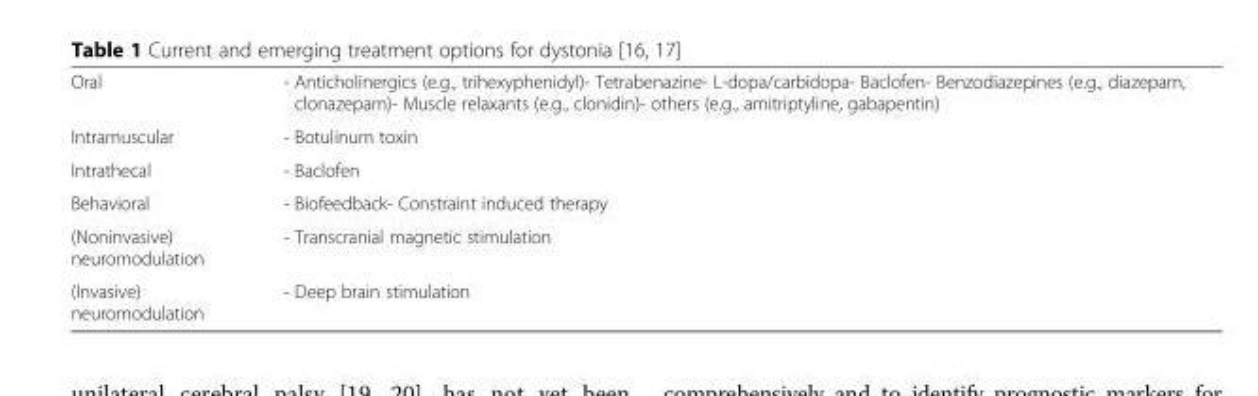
<table><tbody><tr><td>Oral</td><td>- Anticholinergics (e.g., trihexyphenidyl)- Tetrabenazine- L-dopa/carbidopa- Baclofen- Benzodiazepines (e.g., diazepam, clonazepam)- Muscle relaxants (e.g., clonidin)- others (e.g., amitriptyline, gabapentin)</td></tr><tr><td>Intramuscular</td><td>- Botulinum toxin</td></tr><tr><td>Intrathecal</td><td>- Baclofen</td></tr><tr><td>Behavioral</td><td>- Biofeedback- Constraint induced therapy</td></tr><tr><td>(Noninvasive) neuromodulation</td><td>- Transcranial magnetic stimulation</td></tr><tr><td>(Invasive) neuromodulation</td><td>- Deep brain stimulation</td></tr></tbody></table>